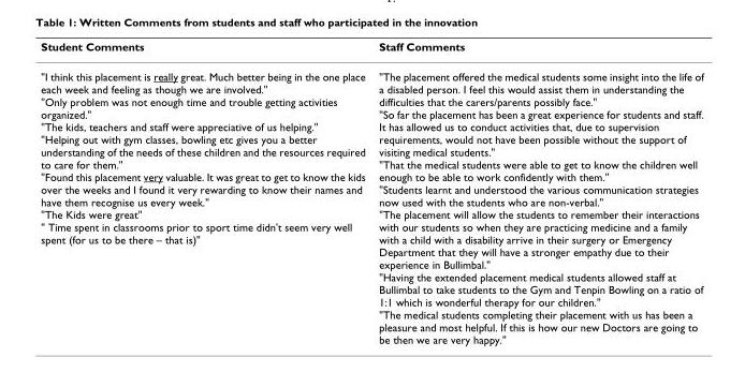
<table><thead><tr><td>Student Comments</td><td>Staff Comments</td></tr></thead><tbody><tr><td>&quot;I think this placement is really great. Much better being in the one place each week and feeling as though we are involved.&quot; &quot;Only problem was not enough time and trouble getting activities organized.&quot; &quot;The kids, teachers and staff were appreciative of us helping.&quot; &quot;Helping out with gym classes, bowling etc gives you a better understanding of the needs of these children and the resources required to care for them.&quot; &quot;Found this placement very valuable. It was great to get to know the kids over the weeks and I found it very rewarding to know their names and have them recognise us every week.&quot; &quot;The Kids were great&quot; &quot; Time spent in classrooms prior to sport time didn&#x27;t seem very well spent (for us to be there – that is)&quot;</td><td>&quot;The placement offered the medical students some insight into the life of a disabled person. I feel this would assist them in understanding the difficulties that the carers/parents possibly face.&quot; &quot;So far the placement has been a great experience for students and staff. It has allowed us to conduct activities that, due to supervision requirements, would not have been possible without the support of visiting medical students.&quot; &quot;That the medical students were able to get to know the children well enough to be able to work confidently with them.&quot; &quot;Students learnt and understood the various communication strategies now used with the students who are non-verbal.&quot; &quot;The placement will allow the students to remember their interactions with our students so when they are practicing medicine and a family with a child with a disability arrive in their surgery or Emergency Department that they will have a stronger empathy due to their experience in Bullimbal.&quot; &quot;Having the extended placement medical students allowed staff at Bullimbal to take students to the Gym and Tenpin Bowling on a ratio of 1:1 which is wonderful therapy for our children.&quot; &quot;The medical students completing their placement with us has been a pleasure and most helpful. If this is how our new Doctors are going to be then we are very happy.&quot;</td></tr></tbody></table>